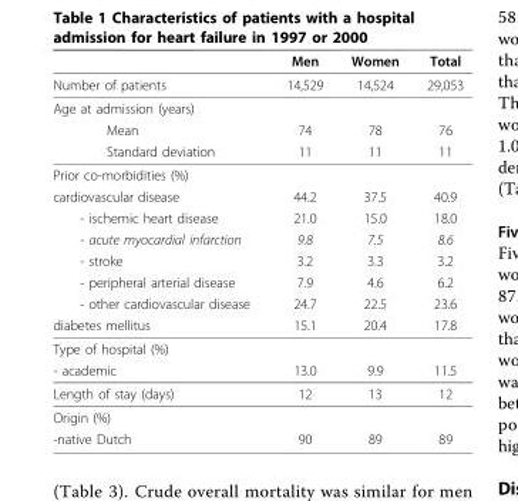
<table><thead><tr><td></td><td>Men</td><td>Women</td><td>Total</td></tr></thead><tbody><tr><td>Number of patients</td><td>14,529</td><td>14,524</td><td>29,053</td></tr><tr><td colspan="4">Age at admission (years)</td></tr><tr><td>Mean</td><td>74</td><td>78</td><td>76</td></tr><tr><td>Standard deviation</td><td>11</td><td>11</td><td>11</td></tr><tr><td colspan="4">Prior co-morbidities (%)</td></tr><tr><td>cardiovascular disease</td><td>44.2</td><td>37.5</td><td>40.9</td></tr><tr><td>- ischemic heart disease</td><td>21.0</td><td>15.0</td><td>18.0</td></tr><tr><td>- acute myocardial infarction</td><td>9.8</td><td>7.5</td><td>8.6</td></tr><tr><td>- stroke</td><td>3.2</td><td>3.3</td><td>3.2</td></tr><tr><td>- peripheral arterial disease</td><td>7.9</td><td>4.6</td><td>6.2</td></tr><tr><td>- other cardiovascular disease</td><td>24.7</td><td>22.5</td><td>23.6</td></tr><tr><td>diabetes mellitus</td><td>15.1</td><td>20.4</td><td>17.8</td></tr><tr><td colspan="4">Type of hospital (%)</td></tr><tr><td>- academic</td><td>13.0</td><td>9.9</td><td>11.5</td></tr><tr><td>Length of stay (days)</td><td>12</td><td>13</td><td>12</td></tr><tr><td colspan="4">Origin (%)</td></tr><tr><td>-native Dutch</td><td>90</td><td>89</td><td>89</td></tr></tbody></table>